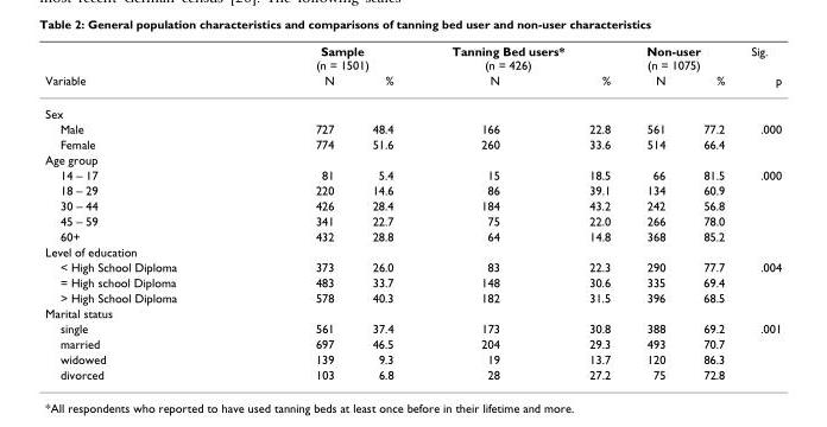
<table><thead><tr><td rowspan="2">Variable</td><td colspan="2">Sample (n = 1501)</td><td colspan="2">Tanning Bed users* (n = 426)</td><td colspan="2">Non-user (n = 1075)</td><td rowspan="2">Sig. p</td></tr><tr><td>N</td><td>%</td><td>N</td><td>%</td><td>N</td><td>%</td></tr></thead><tbody><tr><td colspan="8">Sex</td></tr><tr><td>Male</td><td>727</td><td>48.4</td><td>166</td><td>22.8</td><td>561</td><td>77.2</td><td>.000</td></tr><tr><td>Female</td><td>774</td><td>51.6</td><td>260</td><td>33.6</td><td>514</td><td>66.4</td><td></td></tr><tr><td colspan="8">Age group</td></tr><tr><td>14 – 17</td><td>81</td><td>5.4</td><td>15</td><td>18.5</td><td>66</td><td>81.5</td><td>.000</td></tr><tr><td>18 – 29</td><td>220</td><td>14.6</td><td>86</td><td>39.1</td><td>134</td><td>60.9</td><td></td></tr><tr><td>30 – 44</td><td>426</td><td>28.4</td><td>184</td><td>43.2</td><td>242</td><td>56.8</td><td></td></tr><tr><td>45 – 59</td><td>341</td><td>22.7</td><td>75</td><td>22.0</td><td>266</td><td>78.0</td><td></td></tr><tr><td>60+</td><td>432</td><td>28.8</td><td>64</td><td>14.8</td><td>368</td><td>85.2</td><td></td></tr><tr><td colspan="8">Level of education</td></tr><tr><td>&lt; High School Diploma</td><td>373</td><td>26.0</td><td>83</td><td>22.3</td><td>290</td><td>77.7</td><td>.004</td></tr><tr><td>= High school Diploma</td><td>483</td><td>33.7</td><td>148</td><td>30.6</td><td>335</td><td>69.4</td><td></td></tr><tr><td>&gt; High School Diploma</td><td>578</td><td>40.3</td><td>182</td><td>31.5</td><td>396</td><td>68.5</td><td></td></tr><tr><td colspan="8">Marital status</td></tr><tr><td>single</td><td>561</td><td>37.4</td><td>173</td><td>30.8</td><td>388</td><td>69.2</td><td>.001</td></tr><tr><td>married</td><td>697</td><td>46.5</td><td>204</td><td>29.3</td><td>493</td><td>70.7</td><td></td></tr><tr><td>widowed</td><td>139</td><td>9.3</td><td>19</td><td>13.7</td><td>120</td><td>86.3</td><td></td></tr><tr><td>divorced</td><td>103</td><td>6.8</td><td>28</td><td>27.2</td><td>75</td><td>72.8</td><td></td></tr></tbody></table>